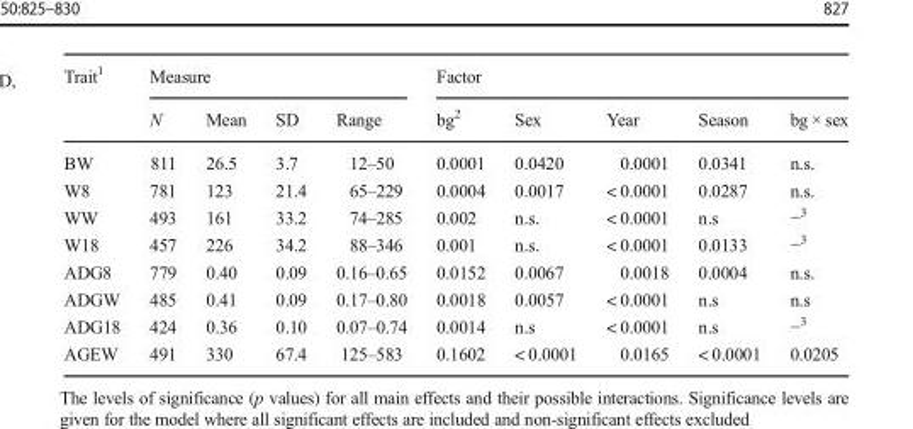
<table><thead><tr><td rowspan="2">Trait<sup>1</sup></td><td colspan="4">Measure</td><td colspan="5">Factor</td></tr><tr><td>N</td><td>Mean</td><td>SD</td><td>Range</td><td>bg<sup>2</sup></td><td>Sex</td><td>Year</td><td>Season</td><td>bg × sex</td></tr></thead><tbody><tr><td>BW</td><td>811</td><td>26.5</td><td>3.7</td><td>12–50</td><td>0.0001</td><td>0.0420</td><td>0.0001</td><td>0.0341</td><td>n.s.</td></tr><tr><td>W8</td><td>781</td><td>123</td><td>21.4</td><td>65–229</td><td>0.0004</td><td>0.0017</td><td>&lt; 0.0001</td><td>0.0287</td><td>n.s.</td></tr><tr><td>WW</td><td>493</td><td>161</td><td>33.2</td><td>74–285</td><td>0.002</td><td>n.s.</td><td>&lt; 0.0001</td><td>n.s</td><td>−<sup>3</sup></td></tr><tr><td>W18</td><td>457</td><td>226</td><td>34.2</td><td>88–346</td><td>0.001</td><td>n.s.</td><td>&lt; 0.0001</td><td>0.0133</td><td>−<sup>3</sup></td></tr><tr><td>ADG8</td><td>779</td><td>0.40</td><td>0.09</td><td>0.16–0.65</td><td>0.0152</td><td>0.0067</td><td>0.0018</td><td>0.0004</td><td>n.s.</td></tr><tr><td>ADGW</td><td>485</td><td>0.41</td><td>0.09</td><td>0.17–0.80</td><td>0.0018</td><td>0.0057</td><td>&lt; 0.0001</td><td>n.s</td><td>n.s</td></tr><tr><td>ADG18</td><td>424</td><td>0.36</td><td>0.10</td><td>0.07–0.74</td><td>0.0014</td><td>n.s</td><td>&lt; 0.0001</td><td>n.s</td><td>−<sup>3</sup></td></tr><tr><td>AGEW</td><td>491</td><td>330</td><td>67.4</td><td>125–583</td><td>0.1602</td><td>&lt; 0.0001</td><td>0.0165</td><td>&lt; 0.0001</td><td>0.0205</td></tr></tbody></table>